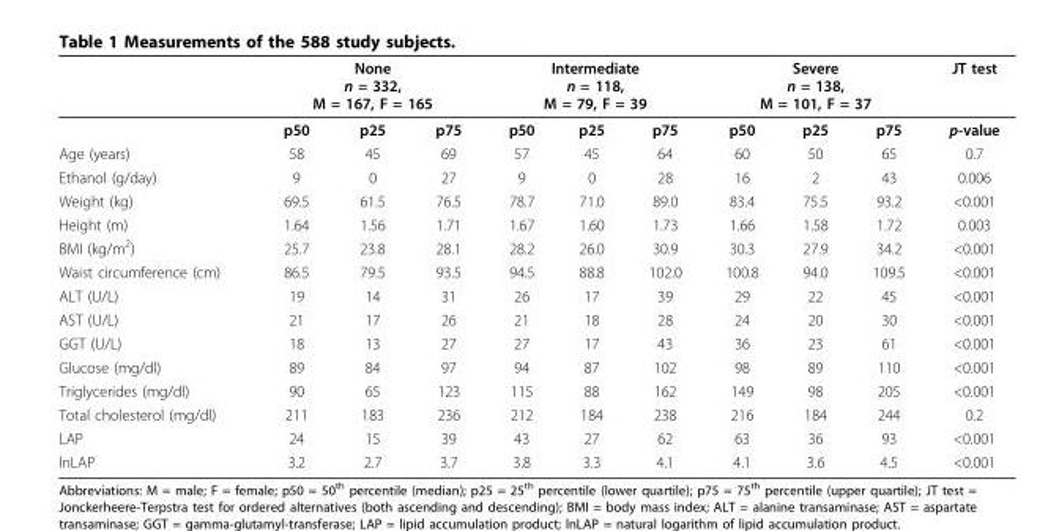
<table><thead><tr><td rowspan="2"></td><td colspan="3">None n = 332, M = 167, F = 165</td><td colspan="3">Intermediate n = 118, M = 79, F = 39</td><td colspan="3">Severe n = 138, M = 101, F = 37</td><td rowspan="2">JT test p-value</td></tr><tr><td>p50</td><td>p25</td><td>p75</td><td>p50</td><td>p25</td><td>p75</td><td>p50</td><td>p25</td><td>p75</td></tr></thead><tbody><tr><td>Age (years)</td><td>58</td><td>45</td><td>69</td><td>57</td><td>45</td><td>64</td><td>60</td><td>50</td><td>65</td><td>0.7</td></tr><tr><td>Ethanol (g/day)</td><td>9</td><td>0</td><td>27</td><td>9</td><td>0</td><td>28</td><td>16</td><td>2</td><td>43</td><td>0.006</td></tr><tr><td>Weight (kg)</td><td>69.5</td><td>61.5</td><td>76.5</td><td>78.7</td><td>71.0</td><td>89.0</td><td>83.4</td><td>75.5</td><td>93.2</td><td>&lt;0.001</td></tr><tr><td>Height (m)</td><td>1.64</td><td>1.56</td><td>1.71</td><td>1.67</td><td>1.60</td><td>1.73</td><td>1.66</td><td>1.58</td><td>1.72</td><td>0.003</td></tr><tr><td>BMI (kg/m<sup>2</sup>)</td><td>25.7</td><td>23.8</td><td>28.1</td><td>28.2</td><td>26.0</td><td>30.9</td><td>30.3</td><td>27.9</td><td>34.2</td><td>&lt;0.001</td></tr><tr><td>Waist circumference (cm)</td><td>86.5</td><td>79.5</td><td>93.5</td><td>94.5</td><td>88.8</td><td>102.0</td><td>100.8</td><td>94.0</td><td>109.5</td><td>&lt;0.001</td></tr><tr><td>ALT (U/L)</td><td>19</td><td>14</td><td>31</td><td>26</td><td>17</td><td>39</td><td>29</td><td>22</td><td>45</td><td>&lt;0.001</td></tr><tr><td>AST (U/L)</td><td>21</td><td>17</td><td>26</td><td>21</td><td>18</td><td>28</td><td>24</td><td>20</td><td>30</td><td>&lt;0.001</td></tr><tr><td>GGT (U/L)</td><td>18</td><td>13</td><td>27</td><td>27</td><td>17</td><td>43</td><td>36</td><td>23</td><td>61</td><td>&lt;0.001</td></tr><tr><td>Glucose (mg/dl)</td><td>89</td><td>84</td><td>97</td><td>94</td><td>87</td><td>102</td><td>98</td><td>89</td><td>110</td><td>&lt;0.001</td></tr><tr><td>Triglycerides (mg/dl)</td><td>90</td><td>65</td><td>123</td><td>115</td><td>88</td><td>162</td><td>149</td><td>98</td><td>205</td><td>&lt;0.001</td></tr><tr><td>Total cholesterol (mg/dl)</td><td>211</td><td>183</td><td>236</td><td>212</td><td>184</td><td>238</td><td>216</td><td>184</td><td>244</td><td>0.2</td></tr><tr><td>LAP</td><td>24</td><td>15</td><td>39</td><td>43</td><td>27</td><td>62</td><td>63</td><td>36</td><td>93</td><td>&lt;0.001</td></tr><tr><td>lnLAP</td><td>3.2</td><td>2.7</td><td>3.7</td><td>3.8</td><td>3.3</td><td>4.1</td><td>4.1</td><td>3.6</td><td>4.5</td><td>&lt;0.001</td></tr></tbody></table>